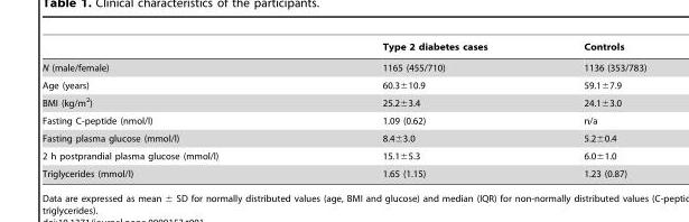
<table><thead><tr><td></td><td>Type 2 diabetes cases</td><td>Controls</td></tr></thead><tbody><tr><td>N (male/female)</td><td>1165 (455/710)</td><td>1136 (353/783)</td></tr><tr><td>Age (years)</td><td>60.3±10.9</td><td>59.1±7.9</td></tr><tr><td>BMI (kg/m<sup>2</sup>)</td><td>25.2±3.4</td><td>24.1±3.0</td></tr><tr><td>Fasting C-peptide (nmol/l)</td><td>1.09 (0.62)</td><td>n/a</td></tr><tr><td>Fasting plasma glucose (mmol/l)</td><td>8.4±3.0</td><td>5.2±0.4</td></tr><tr><td>2 h postprandial plasma glucose (mmol/l)</td><td>15.1±5.3</td><td>6.0±1.0</td></tr><tr><td>Triglycerides (mmol/l)</td><td>1.65 (1.15)</td><td>1.23 (0.87)</td></tr></tbody></table>